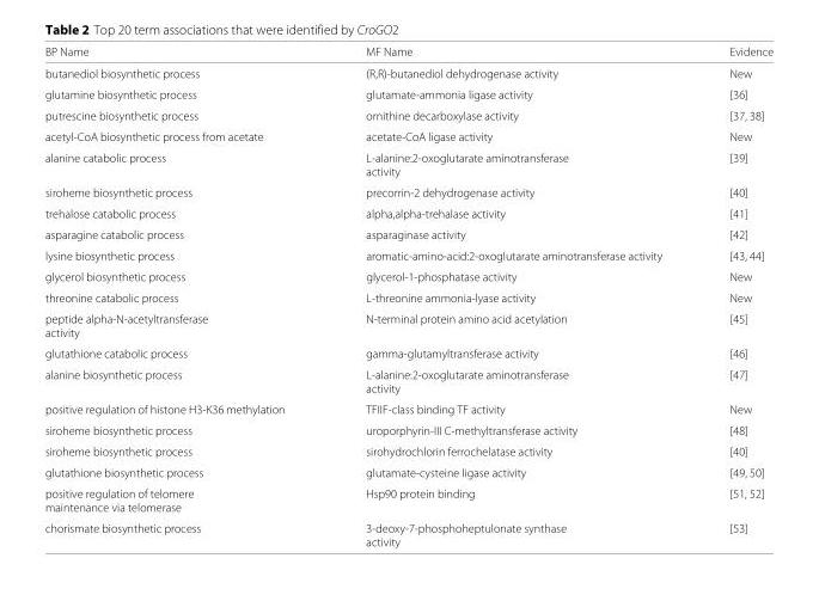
<table><thead><tr><td>BP Name</td><td>MF Name</td><td>Evidence</td></tr></thead><tbody><tr><td>butanediol biosynthetic process</td><td>(R,R)-butanediol dehydrogenase activity</td><td>New</td></tr><tr><td>glutamine biosynthetic process</td><td>glutamate-ammonia ligase activity</td><td>[36]</td></tr><tr><td>putrescine biosynthetic process</td><td>ornithine decarboxylase activity</td><td>[37, 38]</td></tr><tr><td>acetyl-CoA biosynthetic process from acetate</td><td>acetate-CoA ligase activity</td><td>New</td></tr><tr><td>alanine catabolic process</td><td>L-alanine:2-oxoglutarate aminotransferase activity</td><td>[39]</td></tr><tr><td>siroheme biosynthetic process</td><td>precorrin-2 dehydrogenase activity</td><td>[40]</td></tr><tr><td>trehalose catabolic process</td><td>alpha,alpha-trehalase activity</td><td>[41]</td></tr><tr><td>asparagine catabolic process</td><td>asparaginase activity</td><td>[42]</td></tr><tr><td>lysine biosynthetic process</td><td>aromatic-amino-acid:2-oxoglutarate aminotransferase activity</td><td>[43, 44]</td></tr><tr><td>glycerol biosynthetic process</td><td>glycerol-1-phosphatase activity</td><td>New</td></tr><tr><td>threonine catabolic process</td><td>L-threonine ammonia-lyase activity</td><td>New</td></tr><tr><td>peptide alpha-N-acetyltransferase activity</td><td>N-terminal protein amino acid acetylation</td><td>[45]</td></tr><tr><td>glutathione catabolic process</td><td>gamma-glutamyltransferase activity</td><td>[46]</td></tr><tr><td>alanine biosynthetic process</td><td>L-alanine:2-oxoglutarate aminotransferase activity</td><td>[47]</td></tr><tr><td>positive regulation of histone H3-K36 methylation</td><td>TFIIF-class binding TF activity</td><td>New</td></tr><tr><td>siroheme biosynthetic process</td><td>uroporphyrin-III C-methyltransferase activity</td><td>[48]</td></tr><tr><td>siroheme biosynthetic process</td><td>sirohydrochlorin ferrochelatase activity</td><td>[40]</td></tr><tr><td>glutathione biosynthetic process</td><td>glutamate-cysteine ligase activity</td><td>[49, 50]</td></tr><tr><td>positive regulation of telomere maintenance via telomerase</td><td>Hsp90 protein binding</td><td>[51, 52]</td></tr><tr><td>chorismate biosynthetic process</td><td>3-deoxy-7-phosphoheptulonate synthase activity</td><td>[53]</td></tr></tbody></table>